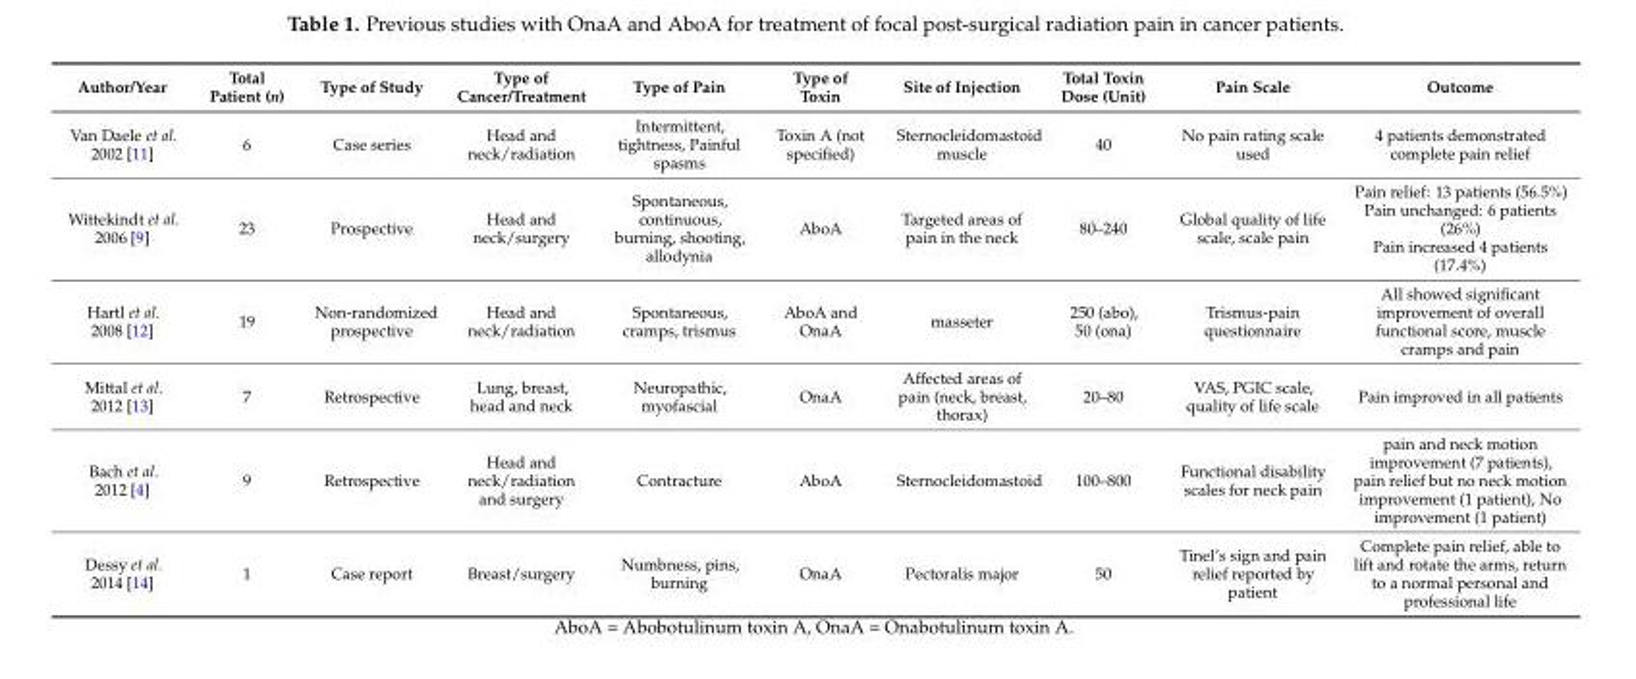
<table><thead><tr><td>Author/Year</td><td>Total Patient (n)</td><td>Type of Study</td><td>Type of Cancer/Treatment</td><td>Type of Pain</td><td>Type of Toxin</td><td>Site of Injection</td><td>Total Toxin Dose (Unit)</td><td>Pain Scale</td><td>Outcome</td></tr></thead><tbody><tr><td>Van Daele et al. 2002 [11]</td><td>6</td><td>Case series</td><td>Head and neck/radiation</td><td>Intermittent, tightness, Painful spasms</td><td>Toxin A (not specified)</td><td>Sternocleidomastoid muscle</td><td>40</td><td>No pain rating scale used</td><td>4 patients demonstrated complete pain relief</td></tr><tr><td>Wittekindt et al. 2006 [9]</td><td>23</td><td>Prospective</td><td>Head and neck/surgery</td><td>Spontaneous, continuous, burning, shooting, allodynia</td><td>AboA</td><td>Targeted areas of pain in the neck</td><td>80–240</td><td>Global quality of life scale, scale pain</td><td>Pain relief: 13 patients (56.5%) Pain unchanged: 6 patients (26%) Pain increased 4 patients (17.4%)</td></tr><tr><td>Hartl et al. 2008 [12]</td><td>19</td><td>Non-randomized prospective</td><td>Head and neck/radiation</td><td>Spontaneous, cramps, trismus</td><td>AboA and OnaA</td><td>masseter</td><td>250 (abo), 50 (ona)</td><td>Trismus-pain questionnaire</td><td>All showed significant improvement of overall functional score, muscle cramps and pain</td></tr><tr><td>Mittal et al. 2012 [13]</td><td>7</td><td>Retrospective</td><td>Lung, breast, head and neck</td><td>Neuropathic, myofascial</td><td>OnaA</td><td>Affected areas of pain (neck, breast, thorax)</td><td>20–80</td><td>VAS, PGIC scale, quality of life scale</td><td>Pain improved in all patients</td></tr><tr><td>Bach et al. 2012 [4]</td><td>9</td><td>Retrospective</td><td>Head and neck/radiation and surgery</td><td>Contracture</td><td>AboA</td><td>Sternocleidomastoid</td><td>100–800</td><td>Functional disability scales for neck pain</td><td>pain and neck motion improvement (7 patients), pain relief but no neck motion improvement (1 patient), No improvement (1 patient)</td></tr><tr><td>Dessy et al. 2014 [14]</td><td>1</td><td>Case report</td><td>Breast/surgery</td><td>Numbness, pins, burning</td><td>OnaA</td><td>Pectoralis major</td><td>50</td><td>Tinel’s sign and pain relief reported by patient</td><td>Complete pain relief, able to lift and rotate the arms, return to a normal personal and professional life</td></tr></tbody></table>